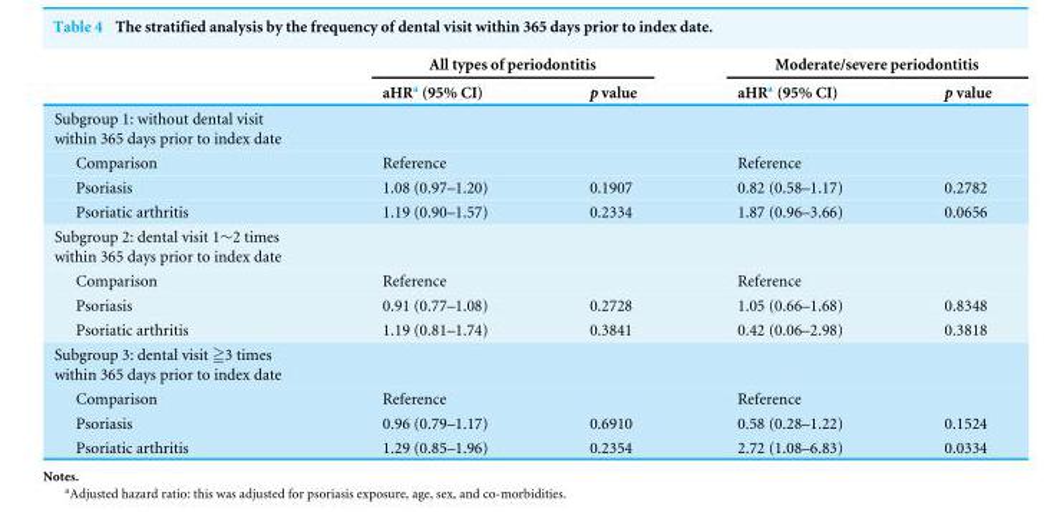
<table><thead><tr><td rowspan="2"></td><td colspan="2">All types of periodontitis</td><td colspan="2">Moderate/severe periodontitis</td></tr><tr><td>aHR<sup>a</sup> (95% CI)</td><td>p value</td><td>aHR<sup>a</sup> (95% CI)</td><td>p value</td></tr></thead><tbody><tr><td colspan="5">Subgroup 1: without dental visit within 365 days prior to index date</td></tr><tr><td>Comparison</td><td>Reference</td><td></td><td>Reference</td><td></td></tr><tr><td>Psoriasis</td><td>1.08 (0.97–1.20)</td><td>0.1907</td><td>0.82 (0.58–1.17)</td><td>0.2782</td></tr><tr><td>Psoriatic arthritis</td><td>1.19 (0.90–1.57)</td><td>0.2334</td><td>1.87 (0.96–3.66)</td><td>0.0656</td></tr><tr><td colspan="5">Subgroup 2: dental visit 1∼2 times within 365 days prior to index date</td></tr><tr><td>Comparison</td><td>Reference</td><td></td><td>Reference</td><td></td></tr><tr><td>Psoriasis</td><td>0.91 (0.77–1.08)</td><td>0.2728</td><td>1.05 (0.66–1.68)</td><td>0.8348</td></tr><tr><td>Psoriatic arthritis</td><td>1.19 (0.81–1.74)</td><td>0.3841</td><td>0.42 (0.06–2.98)</td><td>0.3818</td></tr><tr><td colspan="5">Subgroup 3: dental visit ≧3 times within 365 days prior to index date</td></tr><tr><td>Comparison</td><td>Reference</td><td></td><td>Reference</td><td></td></tr><tr><td>Psoriasis</td><td>0.96 (0.79–1.17)</td><td>0.6910</td><td>0.58 (0.28–1.22)</td><td>0.1524</td></tr><tr><td>Psoriatic arthritis</td><td>1.29 (0.85–1.96)</td><td>0.2354</td><td>2.72 (1.08–6.83)</td><td>0.0334</td></tr></tbody></table>